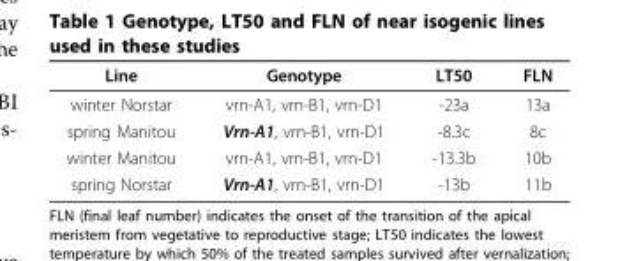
<table><thead><tr><td>Line</td><td>Genotype</td><td>LT50</td><td>FLN</td></tr></thead><tbody><tr><td>winter Norstar</td><td>vrn-A1, vrn-B1, vrn-D1</td><td>-23a</td><td>13a</td></tr><tr><td>spring Manitou</td><td>Vrn-A1, vrn-B1, vrn-D1</td><td>-8.3c</td><td>8c</td></tr><tr><td>winter Manitou</td><td>vrn-A1, vrn-B1, vrn-D1</td><td>-13.3b</td><td>10b</td></tr><tr><td>spring Norstar</td><td>Vrn-A1, vrn-B1, vrn-D1</td><td>-13b</td><td>11b</td></tr></tbody></table>